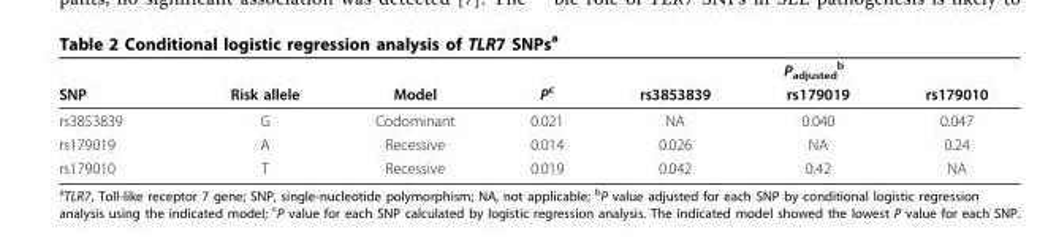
<table><thead><tr><td rowspan="2">SNP</td><td rowspan="2">Risk allele</td><td rowspan="2">Model</td><td rowspan="2">P<sup>c</sup></td><td colspan="3">P<sub>adjusted</sub> <sup>b</sup></td></tr><tr><td>rs3853839</td><td>rs179019</td><td>rs179010</td></tr></thead><tbody><tr><td>rs3853839</td><td>G</td><td>Codominant</td><td>0.021</td><td>NA</td><td>0.040</td><td>0.047</td></tr><tr><td>rs179019</td><td>A</td><td>Recessive</td><td>0.014</td><td>0.026</td><td>NA</td><td>0.24</td></tr><tr><td>rs179010</td><td>T</td><td>Recessive</td><td>0.019</td><td>0.042</td><td>0.42</td><td>NA</td></tr></tbody></table>